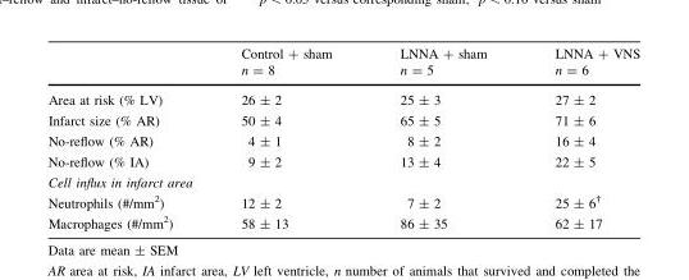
<table><thead><tr><td rowspan="2"></td><td rowspan="2">Control + sham n = 8</td><td rowspan="2">LNNA + sham n = 5</td><td rowspan="2">LNNA + VNS n = 6</td></tr><tr></tr></thead><tbody><tr><td>Area at risk (% LV)</td><td>26 ± 2</td><td>25 ± 3</td><td>27 ± 2</td></tr><tr><td>Infarct size (% AR)</td><td>50 ± 4</td><td>65 ± 5</td><td>71 ± 6</td></tr><tr><td>No-reflow (% AR)</td><td>4 ± 1</td><td>8 ± 2</td><td>16 ± 4</td></tr><tr><td>No-reflow (% IA)</td><td>9 ± 2</td><td>13 ± 4</td><td>22 ± 5</td></tr><tr><td colspan="4">Cell influx in infarct area</td></tr><tr><td>Neutrophils (#/mm<sup>2</sup>)</td><td>12 ± 2</td><td>7 ± 2</td><td>25 ± 6<sup>†</sup></td></tr><tr><td>Macrophages (#/mm<sup>2</sup>)</td><td>58 ± 13</td><td>86 ± 35</td><td>62 ± 17</td></tr></tbody></table>